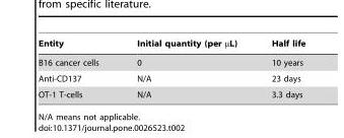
<table><thead><tr><td>Entity</td><td>Initial quantity (per µL)</td><td>Half life</td></tr></thead><tbody><tr><td>B16 cancer cells</td><td>0</td><td>10 years</td></tr><tr><td>Anti-CD137</td><td>N/A</td><td>23 days</td></tr><tr><td>OT-1 T-cells</td><td>N/A</td><td>3.3 days</td></tr></tbody></table>